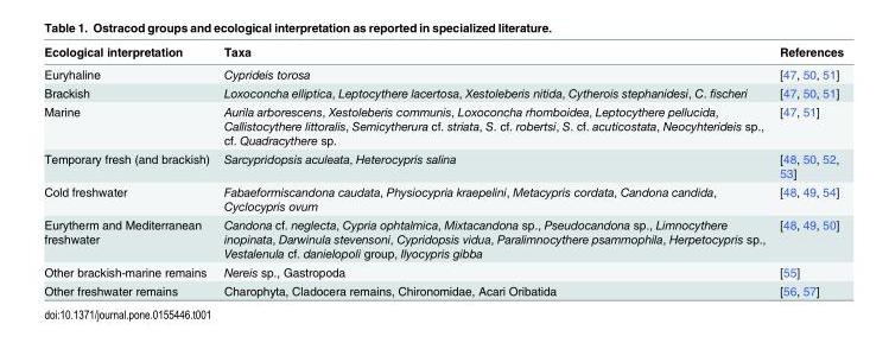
<table><thead><tr><td>Ecological interpretation</td><td>Taxa</td><td>References</td></tr></thead><tbody><tr><td>Euryhaline</td><td>Cyprideis torosa</td><td>[47, 50, 51]</td></tr><tr><td>Brackish</td><td>Loxoconcha elliptica, Leptocythere lacertosa, Xestoleberis nitida, Cytherois stephanidesi, C. fischeri</td><td>[47, 50, 51]</td></tr><tr><td>Marine</td><td>Aurila arborescens, Xestoleberis communis, Loxoconcha rhomboidea, Leptocythere pellucida, Callistocythere littoralis, Semicytherura cf. striata, S. cf. robertsi, S. cf. acuticostata, Neocyhterideis sp., cf. Quadracythere sp.</td><td>[47, 51]</td></tr><tr><td>Temporary fresh (and brackish)</td><td>Sarcypridopsis aculeata, Heterocypris salina</td><td>[48, 50, 52, 53]</td></tr><tr><td>Cold freshwater</td><td>Fabaeformiscandona caudata, Physiocypria kraepelini, Metacypris cordata, Candona candida, Cyclocypris ovum</td><td>[48, 49, 54]</td></tr><tr><td>Eurytherm and Mediterranean freshwater</td><td>Candona cf. neglecta, Cypria ophtalmica, Mixtacandona sp., Pseudocandona sp., Limnocythere inopinata, Darwinula stevensoni, Cypridopsis vidua, Paralimnocythere psammophila, Herpetocypris sp., Vestalenula cf. danielopoli group, Ilyocypris gibba</td><td>[48, 49, 50]</td></tr><tr><td>Other brackish-marine remains</td><td>Nereis sp., Gastropoda</td><td>[55]</td></tr><tr><td>Other freshwater remains</td><td>Charophyta, Cladocera remains, Chironomidae, Acari Oribatida</td><td>[56, 57]</td></tr></tbody></table>